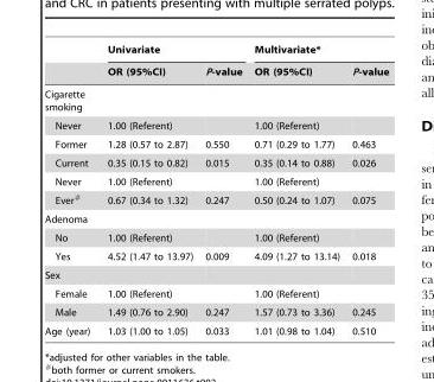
<table><thead><tr><td rowspan="2"></td><td colspan="2">Univariate</td><td colspan="2">Multivariate*</td></tr><tr><td>OR (95%CI)</td><td>P-value</td><td>OR (95%CI)</td><td>P-value</td></tr></thead><tbody><tr><td colspan="5">Cigarette smoking</td></tr><tr><td>Never</td><td>1.00 (Referent)</td><td></td><td>1.00 (Referent)</td><td></td></tr><tr><td>Former</td><td>1.28 (0.57 to 2.87)</td><td>0.550</td><td>0.71 (0.29 to 1.77)</td><td>0.463</td></tr><tr><td>Current</td><td>0.35 (0.15 to 0.82)</td><td>0.015</td><td>0.35 (0.14 to 0.88)</td><td>0.026</td></tr><tr><td>Never</td><td>1.00 (Referent)</td><td></td><td>1.00 (Referent)</td><td></td></tr><tr><td>Ever#</td><td>0.67 (0.34 to 1.32)</td><td>0.247</td><td>0.50 (0.24 to 1.07)</td><td>0.075</td></tr><tr><td colspan="5">Adenoma</td></tr><tr><td>No</td><td>1.00 (Referent)</td><td></td><td>1.00 (Referent)</td><td></td></tr><tr><td>Yes</td><td>4.52 (1.47 to 13.97)</td><td>0.009</td><td>4.09 (1.27 to 13.14)</td><td>0.018</td></tr><tr><td colspan="5">Sex</td></tr><tr><td>Female</td><td>1.00 (Referent)</td><td></td><td>1.00 (Referent)</td><td></td></tr><tr><td>Male</td><td>1.49 (0.76 to 2.90)</td><td>0.247</td><td>1.57 (0.73 to 3.36)</td><td>0.245</td></tr><tr><td>Age (year)</td><td>1.03 (1.00 to 1.05)</td><td>0.033</td><td>1.01 (0.98 to 1.04)</td><td>0.510</td></tr></tbody></table>